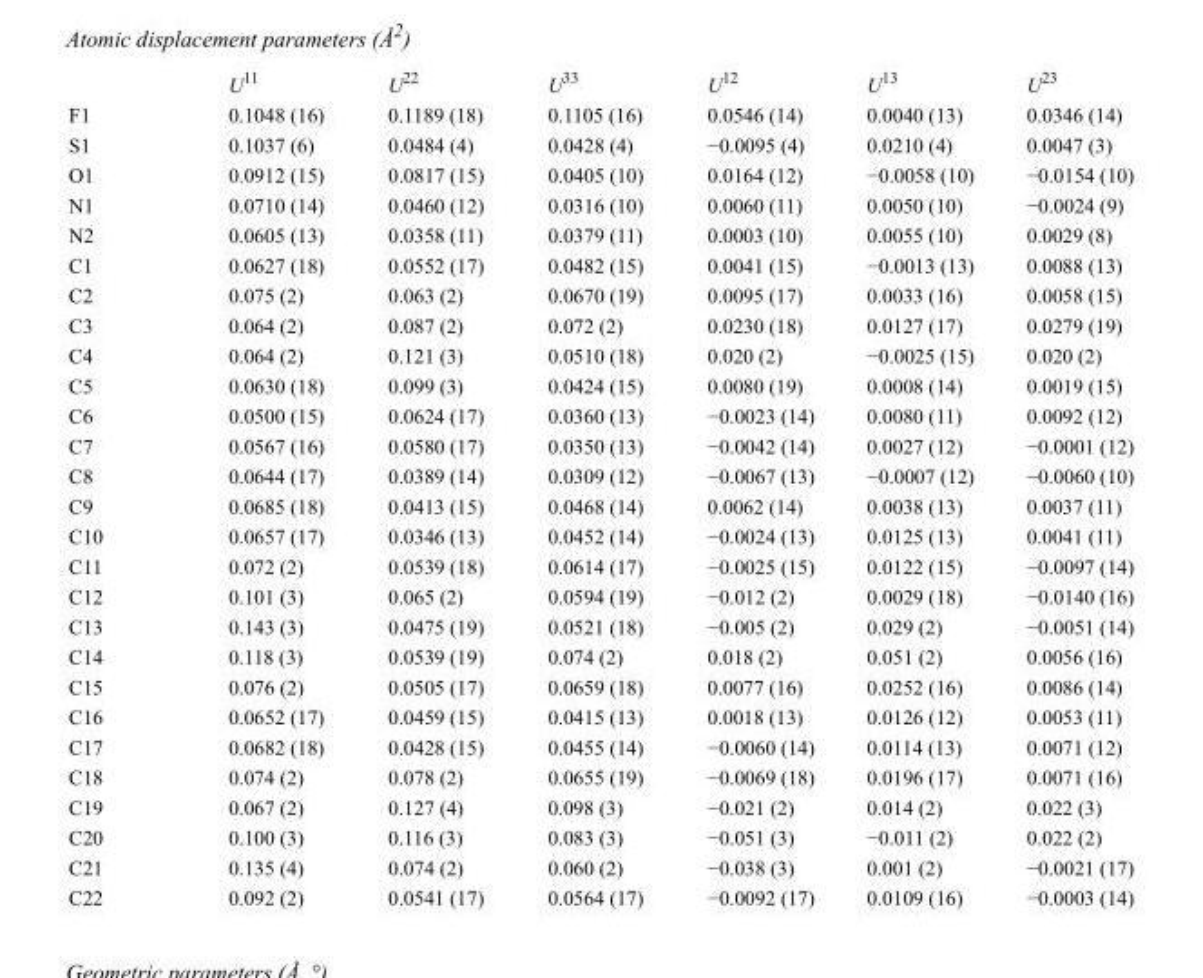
<table><thead><tr><td></td><td>U<sup>11</sup></td><td>U<sup>22</sup></td><td>U<sup>33</sup></td><td>U<sup>12</sup></td><td>U<sup>13</sup></td><td>U<sup>23</sup></td></tr></thead><tbody><tr><td>F1</td><td>0.1048 (16)</td><td>0.1189 (18)</td><td>0.1105 (16)</td><td>0.0546 (14)</td><td>0.0040 (13)</td><td>0.0346 (14)</td></tr><tr><td>S1</td><td>0.1037 (6)</td><td>0.0484 (4)</td><td>0.0428 (4)</td><td>−0.0095 (4)</td><td>0.0210 (4)</td><td>0.0047 (3)</td></tr><tr><td>O1</td><td>0.0912 (15)</td><td>0.0817 (15)</td><td>0.0405 (10)</td><td>0.0164 (12)</td><td>−0.0058 (10)</td><td>−0.0154 (10)</td></tr><tr><td>N1</td><td>0.0710 (14)</td><td>0.0460 (12)</td><td>0.0316 (10)</td><td>0.0060 (11)</td><td>0.0050 (10)</td><td>−0.0024 (9)</td></tr><tr><td>N2</td><td>0.0605 (13)</td><td>0.0358 (11)</td><td>0.0379 (11)</td><td>0.0003 (10)</td><td>0.0055 (10)</td><td>0.0029 (8)</td></tr><tr><td>C1</td><td>0.0627 (18)</td><td>0.0552 (17)</td><td>0.0482 (15)</td><td>0.0041 (15)</td><td>−0.0013 (13)</td><td>0.0088 (13)</td></tr><tr><td>C2</td><td>0.075 (2)</td><td>0.063 (2)</td><td>0.0670 (19)</td><td>0.0095 (17)</td><td>0.0033 (16)</td><td>0.0058 (15)</td></tr><tr><td>C3</td><td>0.064 (2)</td><td>0.087 (2)</td><td>0.072 (2)</td><td>0.0230 (18)</td><td>0.0127 (17)</td><td>0.0279 (19)</td></tr><tr><td>C4</td><td>0.064 (2)</td><td>0.121 (3)</td><td>0.0510 (18)</td><td>0.020 (2)</td><td>−0.0025 (15)</td><td>0.020 (2)</td></tr><tr><td>C5</td><td>0.0630 (18)</td><td>0.099 (3)</td><td>0.0424 (15)</td><td>0.0080 (19)</td><td>0.0008 (14)</td><td>0.0019 (15)</td></tr><tr><td>C6</td><td>0.0500 (15)</td><td>0.0624 (17)</td><td>0.0360 (13)</td><td>−0.0023 (14)</td><td>0.0080 (11)</td><td>0.0092 (12)</td></tr><tr><td>C7</td><td>0.0567 (16)</td><td>0.0580 (17)</td><td>0.0350 (13)</td><td>−0.0042 (14)</td><td>0.0027 (12)</td><td>−0.0001 (12)</td></tr><tr><td>C8</td><td>0.0644 (17)</td><td>0.0389 (14)</td><td>0.0309 (12)</td><td>−0.0067 (13)</td><td>−0.0007 (12)</td><td>−0.0060 (10)</td></tr><tr><td>C9</td><td>0.0685 (18)</td><td>0.0413 (15)</td><td>0.0468 (14)</td><td>0.0062 (14)</td><td>0.0038 (13)</td><td>0.0037 (11)</td></tr><tr><td>C10</td><td>0.0657 (17)</td><td>0.0346 (13)</td><td>0.0452 (14)</td><td>−0.0024 (13)</td><td>0.0125 (13)</td><td>0.0041 (11)</td></tr><tr><td>C11</td><td>0.072 (2)</td><td>0.0539 (18)</td><td>0.0614 (17)</td><td>−0.0025 (15)</td><td>0.0122 (15)</td><td>−0.0097 (14)</td></tr><tr><td>C12</td><td>0.101 (3)</td><td>0.065 (2)</td><td>0.0594 (19)</td><td>−0.012 (2)</td><td>0.0029 (18)</td><td>−0.0140 (16)</td></tr><tr><td>C13</td><td>0.143 (3)</td><td>0.0475 (19)</td><td>0.0521 (18)</td><td>−0.005 (2)</td><td>0.029 (2)</td><td>−0.0051 (14)</td></tr><tr><td>C14</td><td>0.118 (3)</td><td>0.0539 (19)</td><td>0.074 (2)</td><td>0.018 (2)</td><td>0.051 (2)</td><td>0.0056 (16)</td></tr><tr><td>C15</td><td>0.076 (2)</td><td>0.0505 (17)</td><td>0.0659 (18)</td><td>0.0077 (16)</td><td>0.0252 (16)</td><td>0.0086 (14)</td></tr><tr><td>C16</td><td>0.0652 (17)</td><td>0.0459 (15)</td><td>0.0415 (13)</td><td>0.0018 (13)</td><td>0.0126 (12)</td><td>0.0053 (11)</td></tr><tr><td>C17</td><td>0.0682 (18)</td><td>0.0428 (15)</td><td>0.0455 (14)</td><td>−0.0060 (14)</td><td>0.0114 (13)</td><td>0.0071 (12)</td></tr><tr><td>C18</td><td>0.074 (2)</td><td>0.078 (2)</td><td>0.0655 (19)</td><td>−0.0069 (18)</td><td>0.0196 (17)</td><td>0.0071 (16)</td></tr><tr><td>C19</td><td>0.067 (2)</td><td>0.127 (4)</td><td>0.098 (3)</td><td>−0.021 (2)</td><td>0.014 (2)</td><td>0.022 (3)</td></tr><tr><td>C20</td><td>0.100 (3)</td><td>0.116 (3)</td><td>0.083 (3)</td><td>−0.051 (3)</td><td>−0.011 (2)</td><td>0.022 (2)</td></tr><tr><td>C21</td><td>0.135 (4)</td><td>0.074 (2)</td><td>0.060 (2)</td><td>−0.038 (3)</td><td>0.001 (2)</td><td>−0.0021 (17)</td></tr><tr><td>C22</td><td>0.092 (2)</td><td>0.0541 (17)</td><td>0.0564 (17)</td><td>−0.0092 (17)</td><td>0.0109 (16)</td><td>−0.0003 (14)</td></tr></tbody></table>